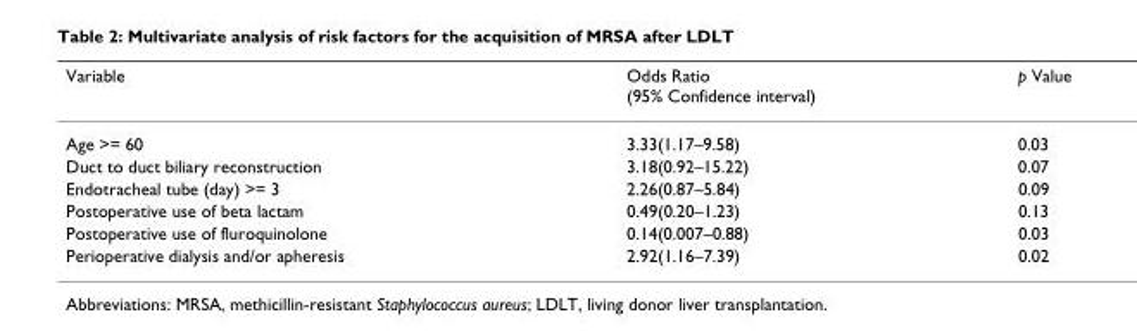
<table><thead><tr><td>Variable</td><td>Odds Ratio (95% Confidence interval)</td><td>p Value</td></tr></thead><tbody><tr><td>Age &gt;= 60</td><td>3.33(1.17–9.58)</td><td>0.03</td></tr><tr><td>Duct to duct biliary reconstruction</td><td>3.18(0.92–15.22)</td><td>0.07</td></tr><tr><td>Endotracheal tube (day) &gt;= 3</td><td>2.26(0.87–5.84)</td><td>0.09</td></tr><tr><td>Postoperative use of beta lactam</td><td>0.49(0.20–1.23)</td><td>0.13</td></tr><tr><td>Postoperative use of fluroquinolone</td><td>0.14(0.007–0.88)</td><td>0.03</td></tr><tr><td>Perioperative dialysis and/or apheresis</td><td>2.92(1.16–7.39)</td><td>0.02</td></tr></tbody></table>